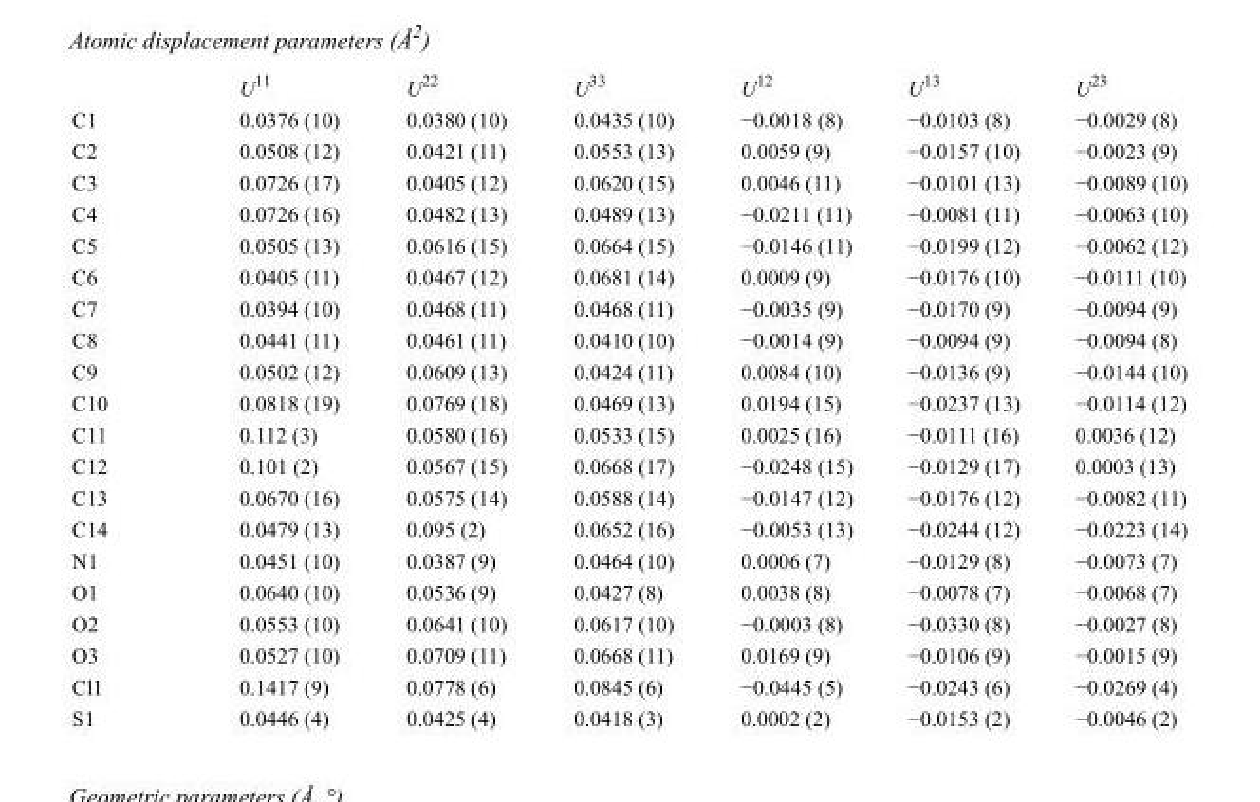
<table><thead><tr><td></td><td>U<sup>11</sup></td><td>U<sup>22</sup></td><td>U<sup>33</sup></td><td>U<sup>12</sup></td><td>U<sup>13</sup></td><td>U<sup>23</sup></td></tr></thead><tbody><tr><td>C1</td><td>0.0376 (10)</td><td>0.0380 (10)</td><td>0.0435 (10)</td><td>−0.0018 (8)</td><td>−0.0103 (8)</td><td>−0.0029 (8)</td></tr><tr><td>C2</td><td>0.0508 (12)</td><td>0.0421 (11)</td><td>0.0553 (13)</td><td>0.0059 (9)</td><td>−0.0157 (10)</td><td>−0.0023 (9)</td></tr><tr><td>C3</td><td>0.0726 (17)</td><td>0.0405 (12)</td><td>0.0620 (15)</td><td>0.0046 (11)</td><td>−0.0101 (13)</td><td>−0.0089 (10)</td></tr><tr><td>C4</td><td>0.0726 (16)</td><td>0.0482 (13)</td><td>0.0489 (13)</td><td>−0.0211 (11)</td><td>−0.0081 (11)</td><td>−0.0063 (10)</td></tr><tr><td>C5</td><td>0.0505 (13)</td><td>0.0616 (15)</td><td>0.0664 (15)</td><td>−0.0146 (11)</td><td>−0.0199 (12)</td><td>−0.0062 (12)</td></tr><tr><td>C6</td><td>0.0405 (11)</td><td>0.0467 (12)</td><td>0.0681 (14)</td><td>0.0009 (9)</td><td>−0.0176 (10)</td><td>−0.0111 (10)</td></tr><tr><td>C7</td><td>0.0394 (10)</td><td>0.0468 (11)</td><td>0.0468 (11)</td><td>−0.0035 (9)</td><td>−0.0170 (9)</td><td>−0.0094 (9)</td></tr><tr><td>C8</td><td>0.0441 (11)</td><td>0.0461 (11)</td><td>0.0410 (10)</td><td>−0.0014 (9)</td><td>−0.0094 (9)</td><td>−0.0094 (8)</td></tr><tr><td>C9</td><td>0.0502 (12)</td><td>0.0609 (13)</td><td>0.0424 (11)</td><td>0.0084 (10)</td><td>−0.0136 (9)</td><td>−0.0144 (10)</td></tr><tr><td>C10</td><td>0.0818 (19)</td><td>0.0769 (18)</td><td>0.0469 (13)</td><td>0.0194 (15)</td><td>−0.0237 (13)</td><td>−0.0114 (12)</td></tr><tr><td>C11</td><td>0.112 (3)</td><td>0.0580 (16)</td><td>0.0533 (15)</td><td>0.0025 (16)</td><td>−0.0111 (16)</td><td>0.0036 (12)</td></tr><tr><td>C12</td><td>0.101 (2)</td><td>0.0567 (15)</td><td>0.0668 (17)</td><td>−0.0248 (15)</td><td>−0.0129 (17)</td><td>0.0003 (13)</td></tr><tr><td>C13</td><td>0.0670 (16)</td><td>0.0575 (14)</td><td>0.0588 (14)</td><td>−0.0147 (12)</td><td>−0.0176 (12)</td><td>−0.0082 (11)</td></tr><tr><td>C14</td><td>0.0479 (13)</td><td>0.095 (2)</td><td>0.0652 (16)</td><td>−0.0053 (13)</td><td>−0.0244 (12)</td><td>−0.0223 (14)</td></tr><tr><td>N1</td><td>0.0451 (10)</td><td>0.0387 (9)</td><td>0.0464 (10)</td><td>0.0006 (7)</td><td>−0.0129 (8)</td><td>−0.0073 (7)</td></tr><tr><td>O1</td><td>0.0640 (10)</td><td>0.0536 (9)</td><td>0.0427 (8)</td><td>0.0038 (8)</td><td>−0.0078 (7)</td><td>−0.0068 (7)</td></tr><tr><td>O2</td><td>0.0553 (10)</td><td>0.0641 (10)</td><td>0.0617 (10)</td><td>−0.0003 (8)</td><td>−0.0330 (8)</td><td>−0.0027 (8)</td></tr><tr><td>O3</td><td>0.0527 (10)</td><td>0.0709 (11)</td><td>0.0668 (11)</td><td>0.0169 (9)</td><td>−0.0106 (9)</td><td>−0.0015 (9)</td></tr><tr><td>Cl1</td><td>0.1417 (9)</td><td>0.0778 (6)</td><td>0.0845 (6)</td><td>−0.0445 (5)</td><td>−0.0243 (6)</td><td>−0.0269 (4)</td></tr><tr><td>S1</td><td>0.0446 (4)</td><td>0.0425 (4)</td><td>0.0418 (3)</td><td>0.0002 (2)</td><td>−0.0153 (2)</td><td>−0.0046 (2)</td></tr></tbody></table>